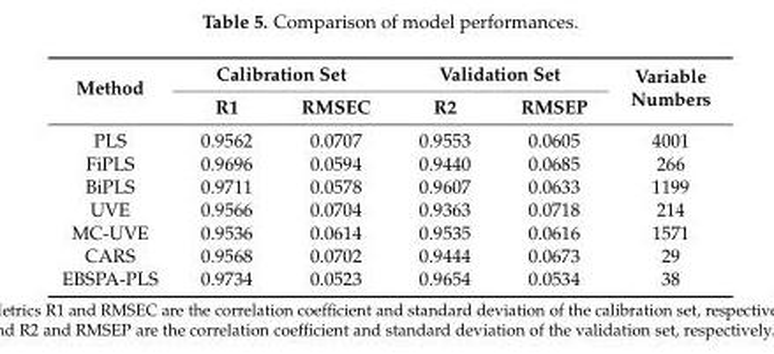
<table><thead><tr><td rowspan="2">Method</td><td colspan="2">Calibration Set</td><td colspan="2">Validation Set</td><td rowspan="2">Variable Numbers</td></tr><tr><td>R1</td><td>RMSEC</td><td>R2</td><td>RMSEP</td></tr></thead><tbody><tr><td>PLS</td><td>0.9562</td><td>0.0707</td><td>0.9553</td><td>0.0605</td><td>4001</td></tr><tr><td>FiPLS</td><td>0.9696</td><td>0.0594</td><td>0.9440</td><td>0.0685</td><td>266</td></tr><tr><td>BiPLS</td><td>0.9711</td><td>0.0578</td><td>0.9607</td><td>0.0633</td><td>1199</td></tr><tr><td>UVE</td><td>0.9566</td><td>0.0704</td><td>0.9363</td><td>0.0718</td><td>214</td></tr><tr><td>MC-UVE</td><td>0.9536</td><td>0.0614</td><td>0.9535</td><td>0.0616</td><td>1571</td></tr><tr><td>CARS</td><td>0.9568</td><td>0.0702</td><td>0.9444</td><td>0.0673</td><td>29</td></tr><tr><td>EBSPA-PLS</td><td>0.9734</td><td>0.0523</td><td>0.9654</td><td>0.0534</td><td>38</td></tr></tbody></table>